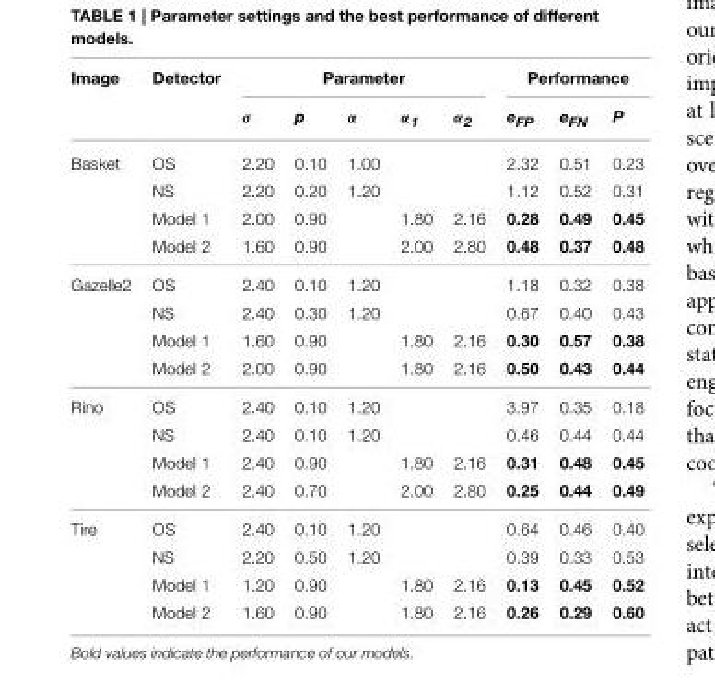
<table><thead><tr><td rowspan="2">Image</td><td rowspan="2">Detector</td><td colspan="5">Parameter</td><td colspan="3">Performance</td></tr><tr><td>σ</td><td>p</td><td>α</td><td>α<sub>1</sub></td><td>α<sub>2</sub></td><td>e<sub>FP</sub></td><td>e<sub>FN</sub></td><td>P</td></tr></thead><tbody><tr><td rowspan="4">Basket</td><td>OS</td><td>2.20</td><td>0.10</td><td>1.00</td><td></td><td></td><td>2.32</td><td>0.51</td><td>0.23</td></tr><tr><td>NS</td><td>2.20</td><td>0.20</td><td>1.20</td><td></td><td></td><td>1.12</td><td>0.52</td><td>0.31</td></tr><tr><td>Model 1</td><td>2.00</td><td>0.90</td><td></td><td>1.80</td><td>2.16</td><td>0.28</td><td>0.49</td><td>0.45</td></tr><tr><td>Model 2</td><td>1.60</td><td>0.90</td><td></td><td>2.00</td><td>2.80</td><td>0.48</td><td>0.37</td><td>0.48</td></tr><tr><td rowspan="4">Gazelle2</td><td>OS</td><td>2.40</td><td>0.10</td><td>1.20</td><td></td><td></td><td>1.18</td><td>0.32</td><td>0.38</td></tr><tr><td>NS</td><td>2.40</td><td>0.30</td><td>1.20</td><td></td><td></td><td>0.67</td><td>0.40</td><td>0.43</td></tr><tr><td>Model 1</td><td>1.60</td><td>0.90</td><td></td><td>1.80</td><td>2.16</td><td>0.30</td><td>0.57</td><td>0.38</td></tr><tr><td>Model 2</td><td>2.00</td><td>0.90</td><td></td><td>1.80</td><td>2.16</td><td>0.50</td><td>0.43</td><td>0.44</td></tr><tr><td rowspan="4">Rino</td><td>OS</td><td>2.40</td><td>0.10</td><td>1.20</td><td></td><td></td><td>3.97</td><td>0.35</td><td>0.18</td></tr><tr><td>NS</td><td>2.40</td><td>0.10</td><td>1.20</td><td></td><td></td><td>0.46</td><td>0.44</td><td>0.44</td></tr><tr><td>Model 1</td><td>2.40</td><td>0.90</td><td></td><td>1.80</td><td>2.16</td><td>0.31</td><td>0.48</td><td>0.45</td></tr><tr><td>Model 2</td><td>2.40</td><td>0.70</td><td></td><td>2.00</td><td>2.80</td><td>0.25</td><td>0.44</td><td>0.49</td></tr><tr><td rowspan="4">Tire</td><td>OS</td><td>2.40</td><td>0.10</td><td>1.20</td><td></td><td></td><td>0.64</td><td>0.46</td><td>0.40</td></tr><tr><td>NS</td><td>2.20</td><td>0.50</td><td>1.20</td><td></td><td></td><td>0.39</td><td>0.33</td><td>0.53</td></tr><tr><td>Model 1</td><td>1.20</td><td>0.90</td><td></td><td>1.80</td><td>2.16</td><td>0.13</td><td>0.45</td><td>0.52</td></tr><tr><td>Model 2</td><td>1.60</td><td>0.90</td><td></td><td>1.80</td><td>2.16</td><td>0.26</td><td>0.29</td><td>0.60</td></tr></tbody></table>